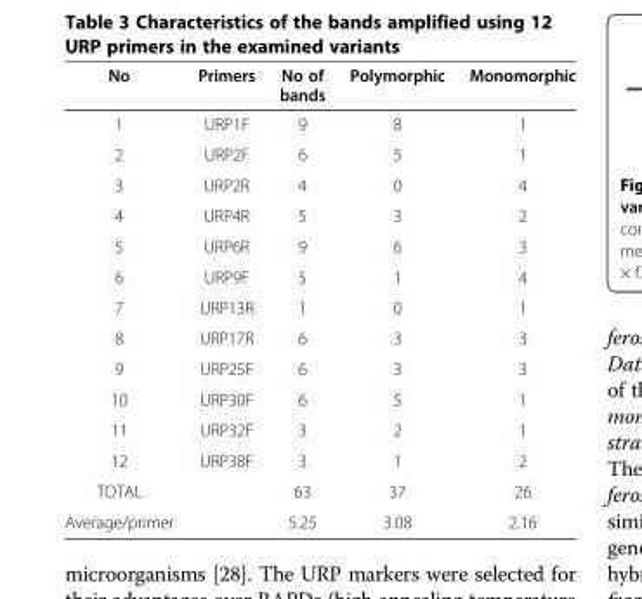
<table><thead><tr><td>No</td><td>Primers</td><td>No of bands</td><td>Polymorphic</td><td>Monomorphic</td></tr></thead><tbody><tr><td>1</td><td>URP1F</td><td>9</td><td>8</td><td>1</td></tr><tr><td>2</td><td>URP2F</td><td>6</td><td>5</td><td>1</td></tr><tr><td>3</td><td>URP2R</td><td>4</td><td>0</td><td>4</td></tr><tr><td>4</td><td>URP4R</td><td>5</td><td>3</td><td>2</td></tr><tr><td>5</td><td>URP6R</td><td>9</td><td>6</td><td>3</td></tr><tr><td>6</td><td>URP9F</td><td>5</td><td>1</td><td>4</td></tr><tr><td>7</td><td>URP13R</td><td>1</td><td>0</td><td>1</td></tr><tr><td>8</td><td>URP17R</td><td>6</td><td>3</td><td>3</td></tr><tr><td>9</td><td>URP25F</td><td>6</td><td>3</td><td>3</td></tr><tr><td>10</td><td>URP30F</td><td>6</td><td>5</td><td>1</td></tr><tr><td>11</td><td>URP32F</td><td>3</td><td>2</td><td>1</td></tr><tr><td>12</td><td>URP38F</td><td>3</td><td>1</td><td>2</td></tr><tr><td>TOTAL</td><td></td><td>63</td><td>37</td><td>26</td></tr><tr><td>Average/primer</td><td></td><td>5.25</td><td>3.08</td><td>2.16</td></tr></tbody></table>